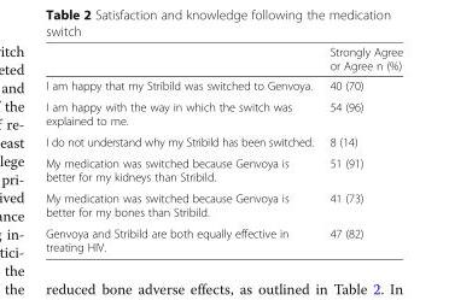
<table><thead><tr><td></td><td>Strongly Agree or Agree n (%)</td></tr></thead><tbody><tr><td>I am happy that my Stribild was switched to Genvoya.</td><td>40 (70)</td></tr><tr><td>I am happy with the way in which the switch was explained to me.</td><td>54 (96)</td></tr><tr><td>I do not understand why my Stribild has been switched.</td><td>8 (14)</td></tr><tr><td>My medication was switched because Genvoya is better for my kidneys than Stribild.</td><td>51 (91)</td></tr><tr><td>My medication was switched because Genvoya is better for my bones than Stribild.</td><td>41 (73)</td></tr><tr><td>Genvoya and Stribild are both equally effective in treating HIV.</td><td>47 (82)</td></tr></tbody></table>